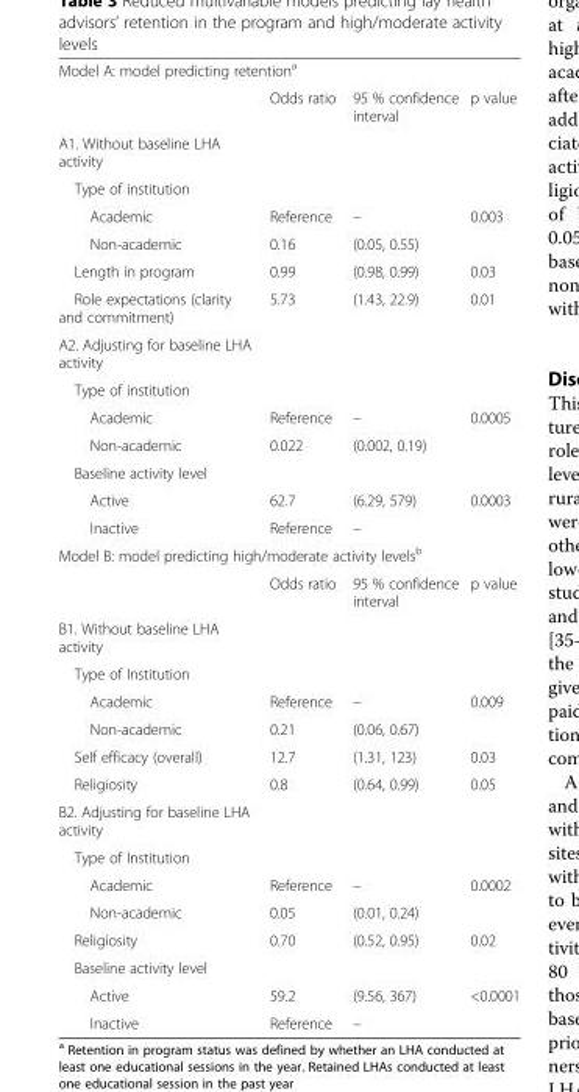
<table><tbody><tr><td colspan="4">Model A: model predicting retention<sup>a</sup></td></tr><tr><td></td><td>Odds ratio</td><td>95 % confidence interval</td><td>p value</td></tr><tr><td colspan="4">A1. Without baseline LHA activity</td></tr><tr><td colspan="4">Type of institution</td></tr><tr><td>Academic</td><td>Reference</td><td>–</td><td rowspan="2">0.003</td></tr><tr><td>Non-academic</td><td>0.16</td><td>(0.05, 0.55)</td></tr><tr><td>Length in program</td><td>0.99</td><td>(0.98, 0.99)</td><td>0.03</td></tr><tr><td>Role expectations (clarity and commitment)</td><td>5.73</td><td>(1.43, 22.9)</td><td>0.01</td></tr><tr><td colspan="4">A2. Adjusting for baseline LHA activity</td></tr><tr><td colspan="4">Type of institution</td></tr><tr><td>Academic</td><td>Reference</td><td>–</td><td>0.0005</td></tr><tr><td>Non-academic</td><td>0.022</td><td>(0.002, 0.19)</td><td></td></tr><tr><td colspan="4">Baseline activity level</td></tr><tr><td>Active</td><td>62.7</td><td>(6.29, 579)</td><td>0.0003</td></tr><tr><td>Inactive</td><td>Reference</td><td>–</td><td></td></tr><tr><td colspan="4">Model B: model predicting high/moderate activity levels<sup>b</sup></td></tr><tr><td></td><td>Odds ratio</td><td>95 % confidence interval</td><td>p value</td></tr><tr><td colspan="4">B1. Without baseline LHA activity</td></tr><tr><td colspan="4">Type of Institution</td></tr><tr><td>Academic</td><td>Reference</td><td>–</td><td rowspan="2">0.009</td></tr><tr><td>Non-academic</td><td>0.21</td><td>(0.06, 0.67)</td></tr><tr><td>Self efficacy (overall)</td><td>12.7</td><td>(1.31, 123)</td><td>0.03</td></tr><tr><td>Religiosity</td><td>0.8</td><td>(0.64, 0.99)</td><td>0.05</td></tr><tr><td colspan="4">B2. Adjusting for baseline LHA activity</td></tr><tr><td colspan="4">Type of Institution</td></tr><tr><td>Academic</td><td>Reference</td><td>–</td><td>0.0002</td></tr><tr><td>Non-academic</td><td>0.05</td><td>(0.01, 0.24)</td><td></td></tr><tr><td>Religiosity</td><td>0.70</td><td>(0.52, 0.95)</td><td>0.02</td></tr><tr><td colspan="4">Baseline activity level</td></tr><tr><td>Active</td><td>59.2</td><td>(9.56, 367)</td><td>&lt;0.0001</td></tr><tr><td>Inactive</td><td>Reference</td><td>–</td><td></td></tr></tbody></table>